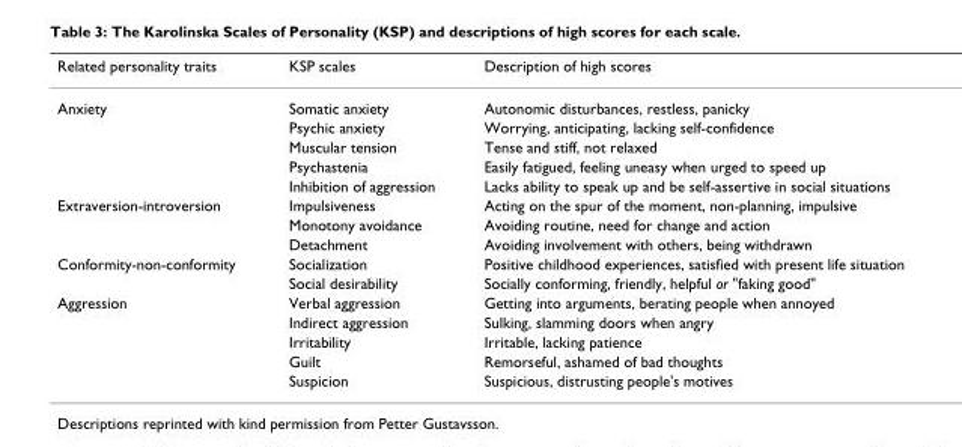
<table><thead><tr><td>Related personality traits</td><td>KSP scales</td><td>Description of high scores</td></tr></thead><tbody><tr><td rowspan="5">Anxiety</td><td>Somatic anxiety</td><td>Autonomic disturbances, restless, panicky</td></tr><tr><td>Psychic anxiety</td><td>Worrying, anticipating, lacking self-confidence</td></tr><tr><td>Muscular tension</td><td>Tense and stiff, not relaxed</td></tr><tr><td>Psychastenia</td><td>Easily fatigued, feeling uneasy when urged to speed up</td></tr><tr><td>Inhibition of aggression</td><td>Lacks ability to speak up and be self-assertive in social situations</td></tr><tr><td rowspan="3">Extraversion-introversion</td><td>Impulsiveness</td><td>Acting on the spur of the moment, non-planning, impulsive</td></tr><tr><td>Monotony avoidance</td><td>Avoiding routine, need for change and action</td></tr><tr><td>Detachment</td><td>Avoiding involvement with others, being withdrawn</td></tr><tr><td rowspan="2">Conformity-non-conformity</td><td>Socialization</td><td>Positive childhood experiences, satisfied with present life situation</td></tr><tr><td>Social desirability</td><td>Socially conforming, friendly, helpful or &quot;faking good&quot;</td></tr><tr><td rowspan="5">Aggression</td><td>Verbal aggression</td><td>Getting into arguments, berating people when annoyed</td></tr><tr><td>Indirect aggression</td><td>Sulking, slamming doors when angry</td></tr><tr><td>Irritability</td><td>Irritable, lacking patience</td></tr><tr><td>Guilt</td><td>Remorseful, ashamed of bad thoughts</td></tr><tr><td>Suspicion</td><td>Suspicious, distrusting people&#x27;s motives</td></tr></tbody></table>